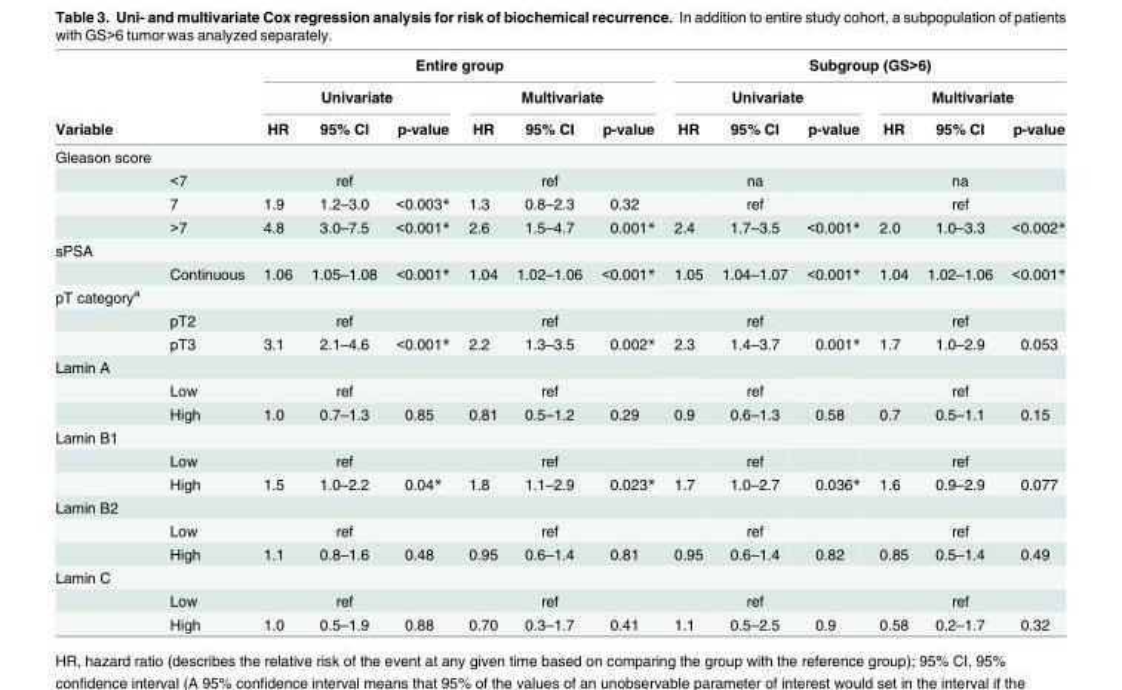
<table><thead><tr><td rowspan="3">Variable</td><td rowspan="3"></td><td colspan="6">Entire group</td><td colspan="6">Subgroup (GS&gt;6)</td></tr><tr><td colspan="3">Univariate</td><td colspan="3">Multivariate</td><td colspan="3">Univariate</td><td colspan="3">Multivariate</td></tr><tr><td>HR</td><td>95% CI</td><td>p-value</td><td>HR</td><td>95% CI</td><td>p-value</td><td>HR</td><td>95% CI</td><td>p-value</td><td>HR</td><td>95% CI</td><td>p-value</td></tr></thead><tbody><tr><td colspan="14">Gleason score</td></tr><tr><td></td><td>&lt;7</td><td></td><td>ref</td><td></td><td></td><td>ref</td><td></td><td></td><td>na</td><td></td><td></td><td>na</td><td></td></tr><tr><td></td><td>7</td><td>1.9</td><td>1.2–3.0</td><td>&lt;0.003*</td><td>1.3</td><td>0.8–2.3</td><td>0.32</td><td></td><td>ref</td><td></td><td></td><td>ref</td><td></td></tr><tr><td></td><td>&gt;7</td><td>4.8</td><td>3.0–7.5</td><td>&lt;0.001*</td><td>2.6</td><td>1.5–4.7</td><td>0.001*</td><td>2.4</td><td>1.7–3.5</td><td>&lt;0.001*</td><td>2.0</td><td>1.0–3.3</td><td>&lt;0.002*</td></tr><tr><td colspan="14">sPSA</td></tr><tr><td></td><td>Continuous</td><td>1.06</td><td>1.05–1.08</td><td>&lt;0.001*</td><td>1.04</td><td>1.02–1.06</td><td>&lt;0.001*</td><td>1.05</td><td>1.04–1.07</td><td>&lt;0.001*</td><td>1.04</td><td>1.02–1.06</td><td>&lt;0.001*</td></tr><tr><td colspan="14">pT category<sup>a</sup></td></tr><tr><td></td><td>pT2</td><td></td><td>ref</td><td></td><td></td><td>ref</td><td></td><td></td><td>ref</td><td></td><td></td><td>ref</td><td></td></tr><tr><td></td><td>pT3</td><td>3.1</td><td>2.1–4.6</td><td>&lt;0.001*</td><td>2.2</td><td>1.3–3.5</td><td>0.002*</td><td>2.3</td><td>1.4–3.7</td><td>0.001*</td><td>1.7</td><td>1.0–2.9</td><td>0.053</td></tr><tr><td colspan="14">Lamin A</td></tr><tr><td></td><td>Low</td><td></td><td>ref</td><td></td><td></td><td>ref</td><td></td><td></td><td>ref</td><td></td><td></td><td>ref</td><td></td></tr><tr><td></td><td>High</td><td>1.0</td><td>0.7–1.3</td><td>0.85</td><td>0.81</td><td>0.5–1.2</td><td>0.29</td><td>0.9</td><td>0.6–1.3</td><td>0.58</td><td>0.7</td><td>0.5–1.1</td><td>0.15</td></tr><tr><td colspan="14">Lamin B1</td></tr><tr><td></td><td>Low</td><td></td><td>ref</td><td></td><td></td><td>ref</td><td></td><td></td><td>ref</td><td></td><td></td><td>ref</td><td></td></tr><tr><td></td><td>High</td><td>1.5</td><td>1.0–2.2</td><td>0.04*</td><td>1.8</td><td>1.1–2.9</td><td>0.023*</td><td>1.7</td><td>1.0–2.7</td><td>0.036*</td><td>1.6</td><td>0.9–2.9</td><td>0.077</td></tr><tr><td colspan="14">Lamin B2</td></tr><tr><td></td><td>Low</td><td></td><td>ref</td><td></td><td></td><td>ref</td><td></td><td></td><td>ref</td><td></td><td></td><td>ref</td><td></td></tr><tr><td></td><td>High</td><td>1.1</td><td>0.8–1.6</td><td>0.48</td><td>0.95</td><td>0.6–1.4</td><td>0.81</td><td>0.95</td><td>0.6–1.4</td><td>0.82</td><td>0.85</td><td>0.5–1.4</td><td>0.49</td></tr><tr><td colspan="14">Lamin C</td></tr><tr><td></td><td>Low</td><td></td><td>ref</td><td></td><td></td><td>ref</td><td></td><td></td><td>ref</td><td></td><td></td><td>ref</td><td></td></tr><tr><td></td><td>High</td><td>1.0</td><td>0.5–1.9</td><td>0.88</td><td>0.70</td><td>0.3–1.7</td><td>0.41</td><td>1.1</td><td>0.5–2.5</td><td>0.9</td><td>0.58</td><td>0.2–1.7</td><td>0.32</td></tr></tbody></table>